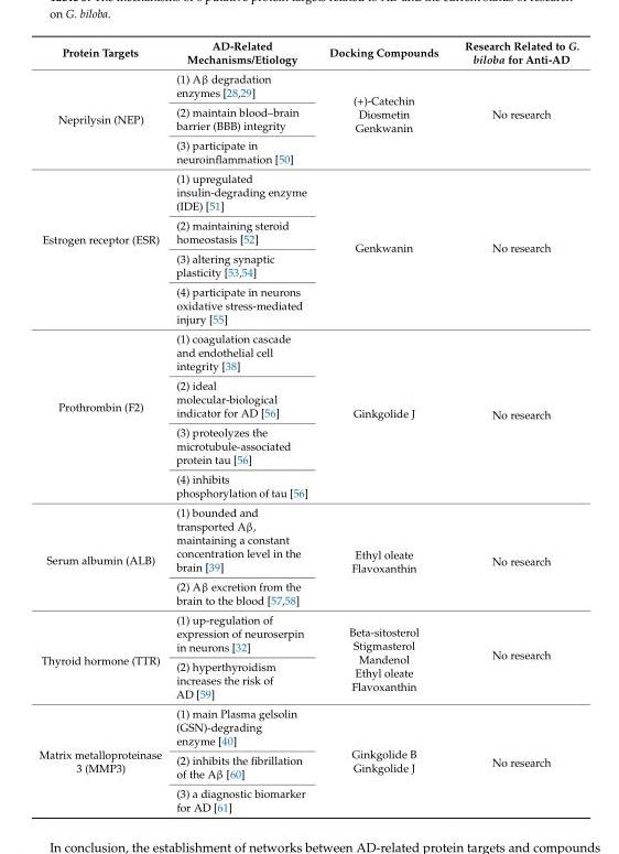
<table><thead><tr><td>Protein Targets</td><td>AD-Related Mechanisms/Etiology</td><td>Docking Compounds</td><td>Research Related to G. biloba for Anti-AD</td></tr></thead><tbody><tr><td rowspan="3">Neprilysin (NEP)</td><td>(1) Aβ degradation enzymes [28,29]</td><td rowspan="3">(+)-Catechin Diosmetin Genkwanin</td><td rowspan="3">No research</td></tr><tr><td>(2) maintain blood–brain barrier (BBB) integrity</td></tr><tr><td>(3) participate in neuroinflammation [50]</td></tr><tr><td rowspan="4">Estrogen receptor (ESR)</td><td>(1) upregulated insulin-degrading enzyme (IDE) [51]</td><td rowspan="4">Genkwanin</td><td rowspan="4">No research</td></tr><tr><td>(2) maintaining steroid homeostasis [52]</td></tr><tr><td>(3) altering synaptic plasticity [53,54]</td></tr><tr><td>(4) participate in neurons oxidative stress-mediated injury [55]</td></tr><tr><td rowspan="4">Prothrombin (F2)</td><td>(1) coagulation cascade and endothelial cell integrity [38]</td><td rowspan="4">Ginkgolide J</td><td rowspan="4">No research</td></tr><tr><td>(2) ideal molecular-biological indicator for AD [56]</td></tr><tr><td>(3) proteolyzes the microtubule-associated protein tau [56]</td></tr><tr><td>(4) inhibits phosphorylation of tau [56]</td></tr><tr><td rowspan="2">Serum albumin (ALB)</td><td>(1) bounded and transported Aβ, maintaining a constant concentration level in the brain [39]</td><td rowspan="2">Ethyl oleate Flavoxanthin</td><td rowspan="2">No research</td></tr><tr><td>(2) Aβ excretion from the brain to the blood [57,58]</td></tr><tr><td rowspan="2">Thyroid hormone (TTR)</td><td>(1) up-regulation of expression of neuroserpin in neurons [32]</td><td rowspan="2">Beta-sitosterol Stigmasterol Mandenol Ethyl oleate Flavoxanthin</td><td rowspan="2">No research</td></tr><tr><td>(2) hyperthyroidism increases the risk of AD [59]</td></tr><tr><td rowspan="3">Matrix metalloproteinase 3 (MMP3)</td><td>(1) main Plasma gelsolin (GSN)-degrading enzyme [40]</td><td rowspan="3">Ginkgolide B Ginkgolide J</td><td rowspan="3">No research</td></tr><tr><td>(2) inhibits the fibrillation of the Aβ [60]</td></tr><tr><td>(3) a diagnostic biomarker for AD [61]</td></tr></tbody></table>